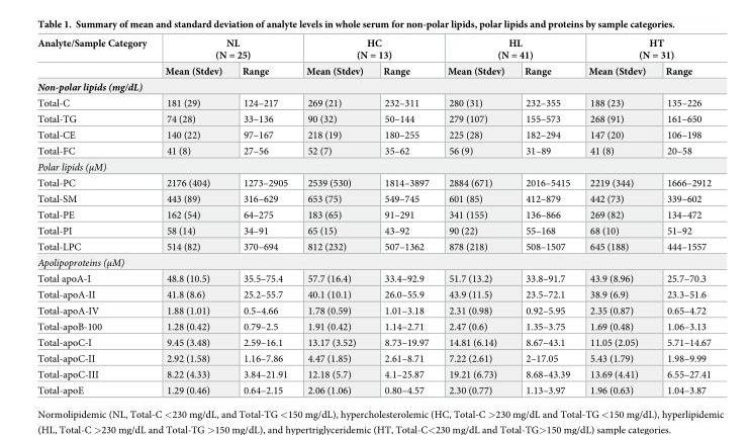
<table><thead><tr><td rowspan="2">Analyte/Sample Category</td><td colspan="2">NL (N = 25)</td><td colspan="2">HC (N = 13)</td><td colspan="2">HL (N = 41)</td><td colspan="2">HT (N = 31)</td></tr><tr><td>Mean (Stdev)</td><td>Range</td><td>Mean (Stdev)</td><td>Range</td><td>Mean (Stdev)</td><td>Range</td><td>Mean (Stdev)</td><td>Range</td></tr><tr><td colspan="9">Non-polar lipids (mg/dL)</td></tr></thead><tbody><tr><td>Total-C</td><td>181 (29)</td><td>124–217</td><td>269 (21)</td><td>232–311</td><td>280 (31)</td><td>232–355</td><td>188 (23)</td><td>135–226</td></tr><tr><td>Total-TG</td><td>74 (28)</td><td>33–136</td><td>90 (32)</td><td>50–144</td><td>279 (107)</td><td>155–573</td><td>268 (91)</td><td>161–650</td></tr><tr><td>Total-CE</td><td>140 (22)</td><td>97–167</td><td>218 (19)</td><td>180–255</td><td>225 (28)</td><td>182–294</td><td>147 (20)</td><td>106–198</td></tr><tr><td>Total-FC</td><td>41 (8)</td><td>27–56</td><td>52 (7)</td><td>35–62</td><td>56 (9)</td><td>31–89</td><td>41 (8)</td><td>20–58</td></tr><tr><td colspan="9">Polar lipids (μM)</td></tr><tr><td>Total-PC</td><td>2176 (404)</td><td>1273–2905</td><td>2539 (530)</td><td>1814–3897</td><td>2884 (671)</td><td>2016–5415</td><td>2219 (344)</td><td>1666–2912</td></tr><tr><td>Total-SM</td><td>443 (89)</td><td>316–629</td><td>653 (75)</td><td>549–745</td><td>601 (85)</td><td>412–879</td><td>442 (73)</td><td>339–602</td></tr><tr><td>Total-PE</td><td>162 (54)</td><td>64–275</td><td>183 (65)</td><td>91–291</td><td>341 (155)</td><td>136–866</td><td>269 (82)</td><td>134–472</td></tr><tr><td>Total-PI</td><td>58 (14)</td><td>34–91</td><td>65 (15)</td><td>43–92</td><td>90 (22)</td><td>55–168</td><td>68 (10)</td><td>51–92</td></tr><tr><td>Total-LPC</td><td>514 (82)</td><td>370–694</td><td>812 (232)</td><td>507–1362</td><td>878 (218)</td><td>508–1507</td><td>645 (188)</td><td>444–1557</td></tr><tr><td colspan="9">Apolipoproteins (μM)</td></tr><tr><td>Total apoA-I</td><td>48.8 (10.5)</td><td>35.5–75.4</td><td>57.7 (16.4)</td><td>33.4–92.9</td><td>51.7 (13.2)</td><td>33.8–91.7</td><td>43.9 (8.96)</td><td>25.7–70.3</td></tr><tr><td>Total-apoA-II</td><td>41.8 (8.6)</td><td>25.2–55.7</td><td>40.1 (10.1)</td><td>26.0–55.9</td><td>43.9 (11.5)</td><td>23.5–72.1</td><td>38.9 (6.9)</td><td>23.3–51.6</td></tr><tr><td>Total-apoA-IV</td><td>1.88 (1.01)</td><td>0.5–4.66</td><td>1.78 (0.59)</td><td>1.01–3.18</td><td>2.31 (0.98)</td><td>0.92–5.95</td><td>2.35 (0.87)</td><td>0.65–4.72</td></tr><tr><td>Total-apoB-100</td><td>1.28 (0.42)</td><td>0.79–2.5</td><td>1.91 (0.42)</td><td>1.14–2.71</td><td>2.47 (0.6)</td><td>1.35–3.75</td><td>1.69 (0.48)</td><td>1.06–3.13</td></tr><tr><td>Total-apoC-I</td><td>9.45 (3.48)</td><td>2.59–16.1</td><td>13.17 (3.52)</td><td>8.73–19.97</td><td>14.81 (6.14)</td><td>8.67–43.1</td><td>11.05 (2.05)</td><td>5.71–14.67</td></tr><tr><td>Total-apoC-II</td><td>2.92 (1.58)</td><td>1.16–7.86</td><td>4.47 (1.85)</td><td>2.61–8.71</td><td>7.22 (2.61)</td><td>2–17.05</td><td>5.43 (1.79)</td><td>1.98–9.99</td></tr><tr><td>Total-apoC-III</td><td>8.22 (4.33)</td><td>3.84–21.91</td><td>12.18 (5.7)</td><td>4.1–25.87</td><td>19.21 (6.73)</td><td>8.68–43.39</td><td>13.69 (4.41)</td><td>6.55–27.41</td></tr><tr><td>Total-apoE</td><td>1.29 (0.46)</td><td>0.64–2.15</td><td>2.06 (1.06)</td><td>0.80–4.57</td><td>2.30 (0.77)</td><td>1.13–3.97</td><td>1.96 (0.63)</td><td>1.04–3.87</td></tr></tbody></table>